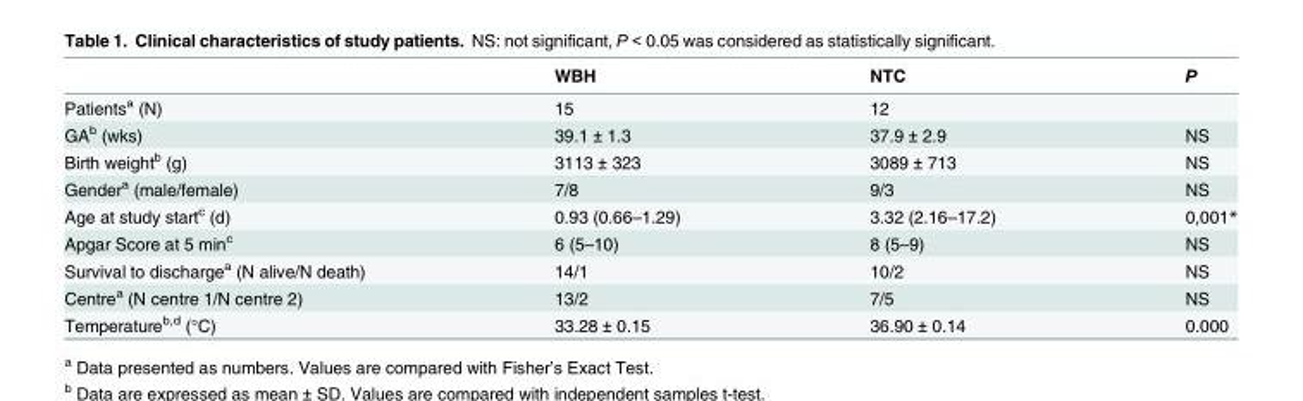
<table><thead><tr><td></td><td>WBH</td><td>NTC</td><td>P</td></tr></thead><tbody><tr><td>Patients<sup>a</sup> (N)</td><td>15</td><td>12</td><td></td></tr><tr><td>GA<sup>b</sup> (wks)</td><td>39.1 ± 1.3</td><td>37.9 ± 2.9</td><td>NS</td></tr><tr><td>Birth weight<sup>b</sup> (g)</td><td>3113 ± 323</td><td>3089 ± 713</td><td>NS</td></tr><tr><td>Gender<sup>a</sup> (male/female)</td><td>7/8</td><td>9/3</td><td>NS</td></tr><tr><td>Age at study start<sup>c</sup> (d)</td><td>0.93 (0.66–1.29)</td><td>3.32 (2.16–17.2)</td><td>0,001*</td></tr><tr><td>Apgar Score at 5 min<sup>c</sup></td><td>6 (5–10)</td><td>8 (5–9)</td><td>NS</td></tr><tr><td>Survival to discharge<sup>a</sup> (N alive/N death)</td><td>14/1</td><td>10/2</td><td>NS</td></tr><tr><td>Centre<sup>a</sup> (N centre 1/N centre 2)</td><td>13/2</td><td>7/5</td><td>NS</td></tr><tr><td>Temperature<sup>b,d</sup> (°C)</td><td>33.28 ± 0.15</td><td>36.90 ± 0.14</td><td>0.000</td></tr></tbody></table>